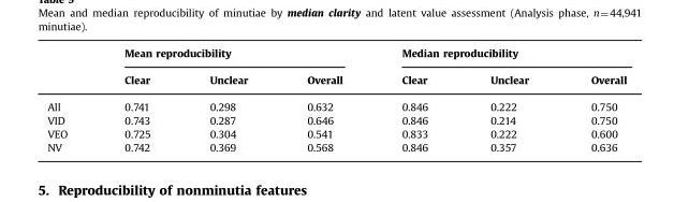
<table><thead><tr><td rowspan="2"></td><td colspan="3">Mean reproducibility</td><td colspan="3">Median reproducibility</td></tr><tr><td>Clear</td><td>Unclear</td><td>Overall</td><td>Clear</td><td>Unclear</td><td>Overall</td></tr></thead><tbody><tr><td>All</td><td>0.741</td><td>0.298</td><td>0.632</td><td>0.846</td><td>0.222</td><td>0.750</td></tr><tr><td>VID</td><td>0.743</td><td>0.287</td><td>0.646</td><td>0.846</td><td>0.214</td><td>0.750</td></tr><tr><td>VEO</td><td>0.725</td><td>0.304</td><td>0.541</td><td>0.833</td><td>0.222</td><td>0.600</td></tr><tr><td>NV</td><td>0.742</td><td>0.369</td><td>0.568</td><td>0.846</td><td>0.357</td><td>0.636</td></tr></tbody></table>